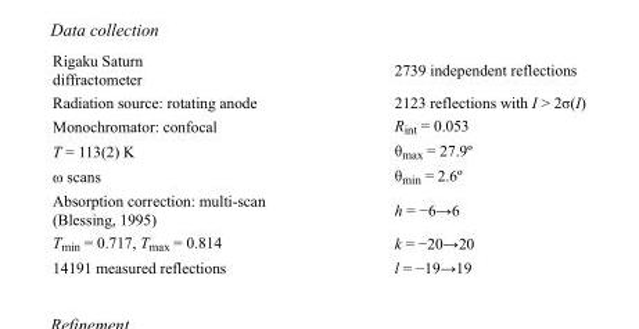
<table><tbody><tr><td>Rigaku Saturn diffractometer</td><td>2739 independent reflections</td></tr><tr><td>Radiation source: rotating anode</td><td>2123 reflections with I &gt; 2σ(I)</td></tr><tr><td>Monochromator: confocal</td><td>R<sub>int</sub> = 0.053</td></tr><tr><td>T = 113(2) K</td><td>θ<sub>max</sub> = 27.9º</td></tr><tr><td>ω scans</td><td>θ<sub>min</sub> = 2.6º</td></tr><tr><td>Absorption correction: multi-scan (Blessing, 1995)</td><td>h = −6→6</td></tr><tr><td>T<sub>min</sub> = 0.717, T<sub>max</sub> = 0.814</td><td>k = −20→20</td></tr><tr><td>14191 measured reflections</td><td>l = −19→19</td></tr></tbody></table>